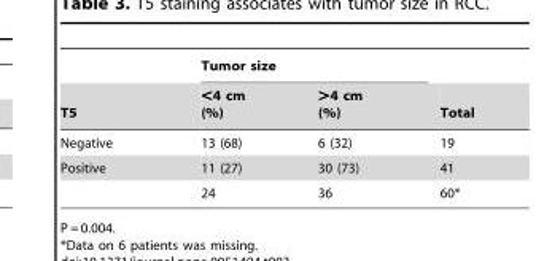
<table><thead><tr><td rowspan="2">T5</td><td colspan="2">Tumor size</td><td rowspan="2">Total</td></tr><tr><td>&lt;4 cm (%)</td><td>&gt;4 cm (%)</td></tr></thead><tbody><tr><td>Negative</td><td>13 (68)</td><td>6 (32)</td><td>19</td></tr><tr><td rowspan="2">Positive</td><td>11 (27)</td><td>30 (73)</td><td>41</td></tr><tr><td>24</td><td>36</td><td>60*</td></tr></tbody></table>